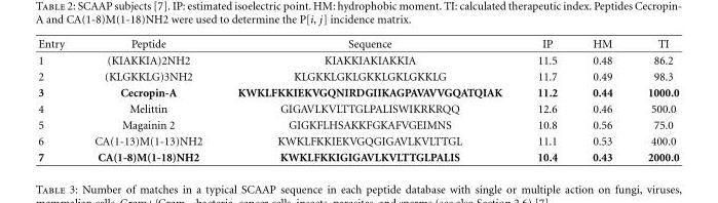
<table><thead><tr><td>Entry</td><td>Peptide</td><td>Sequence</td><td>IP</td><td>HM</td><td>TI</td></tr></thead><tbody><tr><td>1</td><td>(KIAKKIA)2NH2</td><td>KIAKKIAKIAKKIA</td><td>11.5</td><td>0.48</td><td>86.2</td></tr><tr><td>2</td><td>(KLGKKLG)3NH2</td><td>KLGKKLGKLGKKLGKLGKKLG</td><td>11.7</td><td>0.49</td><td>98.3</td></tr><tr><td>3</td><td>Cecropin-A</td><td>KWKLFKKIEKVGQNIRDGIIKAGPAVAVVGQATQIAK</td><td>11.2</td><td>0.44</td><td>1000.0</td></tr><tr><td>4</td><td>Melittin</td><td>GIGAVLKVLTTGLPALISWIKRKRQQ</td><td>12.6</td><td>0.46</td><td>500.0</td></tr><tr><td>5</td><td>Magainin 2</td><td>GIGKFLHSAKKFGKAFVGEIMNS</td><td>10.8</td><td>0.56</td><td>75.0</td></tr><tr><td>6</td><td>CA(1-13)M(1-13)NH2</td><td>KWKLFKKIEKVGQGIGAVLKVLTTGL</td><td>11.1</td><td>0.53</td><td>400.0</td></tr><tr><td>7</td><td>CA(1-8)M(1-18)NH2</td><td>KWKLFKKIGIGAVLKVLTTGLPALIS</td><td>10.4</td><td>0.43</td><td>2000.0</td></tr></tbody></table>